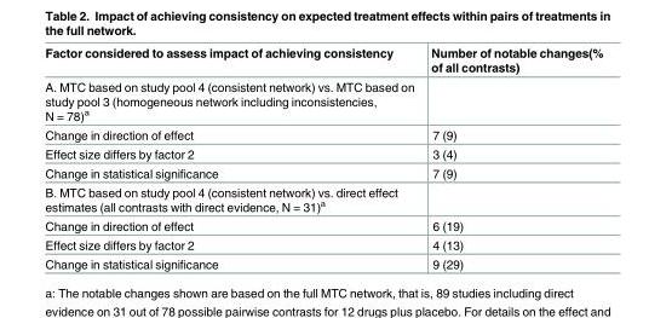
<table><thead><tr><td>Factor considered to assess impact of achieving consistency</td><td>Number of notable changes(% of all contrasts)</td></tr></thead><tbody><tr><td colspan="2">A. MTC based on study pool 4 (consistent network) vs. MTC based on study pool 3 (homogeneous network including inconsistencies, N = 78)<sup>a</sup></td></tr><tr><td>Change in direction of effect</td><td>7 (9)</td></tr><tr><td>Effect size differs by factor 2</td><td>3 (4)</td></tr><tr><td>Change in statistical significance</td><td>7 (9)</td></tr><tr><td colspan="2">B. MTC based on study pool 4 (consistent network) vs. direct effect estimates (all contrasts with direct evidence, N = 31)<sup>a</sup></td></tr><tr><td>Change in direction of effect</td><td>6 (19)</td></tr><tr><td>Effect size differs by factor 2</td><td>4 (13)</td></tr><tr><td>Change in statistical significance</td><td>9 (29)</td></tr></tbody></table>